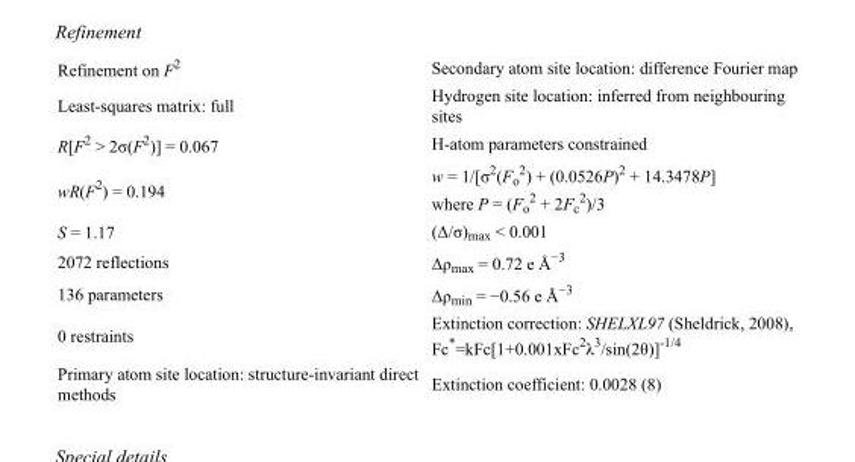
<table><tbody><tr><td>Refinement on F<sup>2</sup></td><td>Secondary atom site location: difference Fourier map</td></tr><tr><td>Least-squares matrix: full</td><td>Hydrogen site location: inferred from neighbouring sites</td></tr><tr><td>R[F<sup>2</sup> &gt; 2σ(F<sup>2</sup>)] = 0.067</td><td>H-atom parameters constrained</td></tr><tr><td>wR(F<sup>2</sup>) = 0.194</td><td>w = 1/[σ<sup>2</sup>(F<sub>o</sub> <sup>2</sup>) + (0.0526P)<sup>2</sup> + 14.3478P] where P = (F<sub>o</sub> <sup>2</sup> + 2F<sub>c</sub> <sup>2</sup>)/3</td></tr><tr><td>S = 1.17</td><td>(Δ/σ)<sub>max</sub> &lt; 0.001</td></tr><tr><td>2072 reflections</td><td>Δρ<sub>max</sub> = 0.72 e Å<sup>−3</sup></td></tr><tr><td>136 parameters</td><td>Δρ<sub>min</sub> = −0.56 e Å<sup>−3</sup></td></tr><tr><td>0 restraints</td><td>Extinction correction: SHELXL97 (Sheldrick, 2008), Fc*=kFc[1+0.001xFc<sup>2</sup>λ<sup>3</sup>/sin(2θ)]<sup>-1/4</sup></td></tr><tr><td>Primary atom site location: structure-invariant direct methods</td><td>Extinction coefficient: 0.0028 (8)</td></tr></tbody></table>